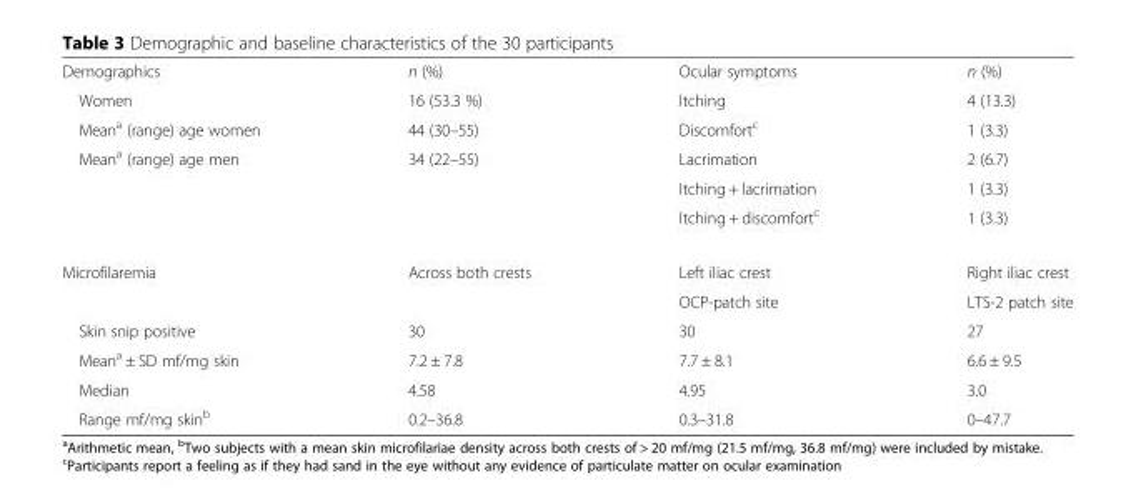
<table><tbody><tr><td>Demographics</td><td>n (%)</td><td>Ocular symptoms</td><td>n (%)</td></tr><tr><td>Women</td><td>16 (53.3 %)</td><td>Itching</td><td>4 (13.3)</td></tr><tr><td>Mean<sup>a</sup> (range) age women</td><td>44 (30–55)</td><td>Discomfort<sup>c</sup></td><td>1 (3.3)</td></tr><tr><td rowspan="3">Mean<sup>a</sup> (range) age men</td><td>34 (22–55)</td><td>Lacrimation</td><td>2 (6.7)</td></tr><tr><td></td><td>Itching + lacrimation</td><td>1 (3.3)</td></tr><tr><td></td><td>Itching + discomfort<sup>c</sup></td><td>1 (3.3)</td></tr><tr><td rowspan="2">Microfilaremia</td><td>Across both crests</td><td>Left iliac crest</td><td>Right iliac crest</td></tr><tr><td></td><td>OCP-patch site</td><td>LTS-2 patch site</td></tr><tr><td>Skin snip positive</td><td>30</td><td>30</td><td>27</td></tr><tr><td>Mean<sup>a</sup> ± SD mf/mg skin</td><td>7.2 ± 7.8</td><td>7.7 ± 8.1</td><td>6.6 ± 9.5</td></tr><tr><td>Median</td><td>4.58</td><td>4.95</td><td>3.0</td></tr><tr><td>Range mf/mg skin<sup>b</sup></td><td>0.2–36.8</td><td>0.3–31.8</td><td>0–47.7</td></tr></tbody></table>